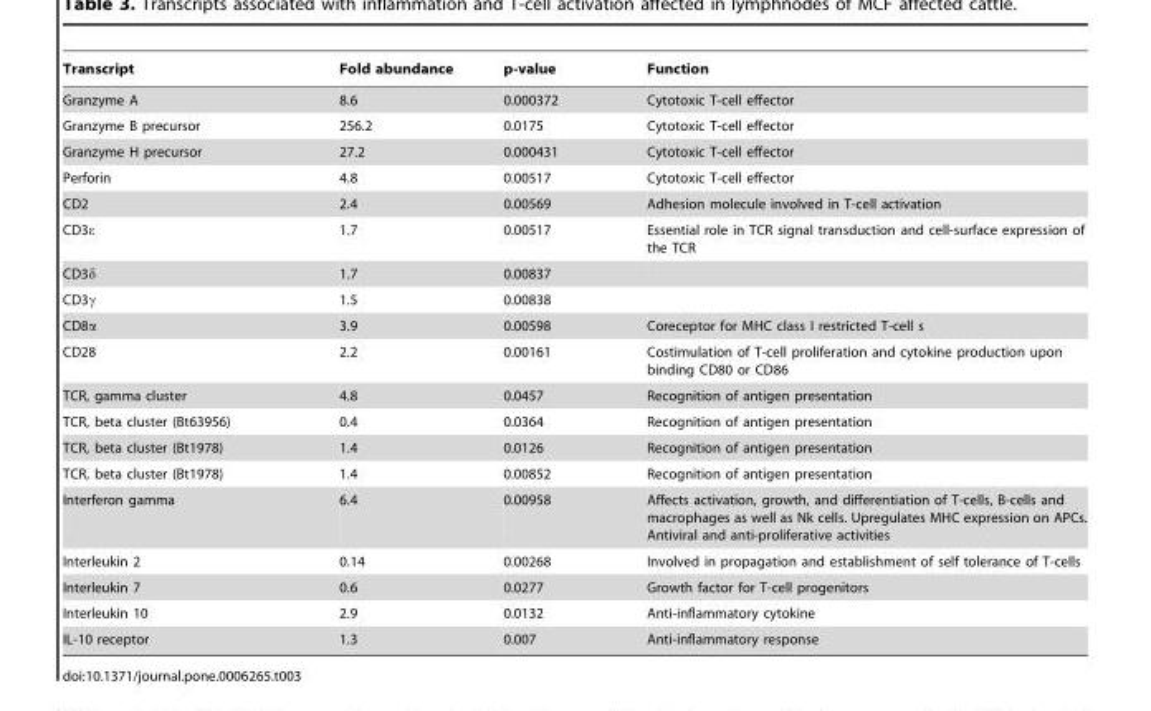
<table><thead><tr><td>Transcript</td><td>Fold abundance</td><td>p-value</td><td>Function</td></tr></thead><tbody><tr><td>Granzyme A</td><td>8.6</td><td>0.000372</td><td>Cytotoxic T-cell effector</td></tr><tr><td>Granzyme B precursor</td><td>256.2</td><td>0.0175</td><td>Cytotoxic T-cell effector</td></tr><tr><td>Granzyme H precursor</td><td>27.2</td><td>0.000431</td><td>Cytotoxic T-cell effector</td></tr><tr><td>Perforin</td><td>4.8</td><td>0.00517</td><td>Cytotoxic T-cell effector</td></tr><tr><td>CD2</td><td>2.4</td><td>0.00569</td><td>Adhesion molecule involved in T-cell activation</td></tr><tr><td>CD3ε</td><td>1.7</td><td>0.00517</td><td>Essential role in TCR signal transduction and cell-surface expression of the TCR</td></tr><tr><td>CD3δ</td><td>1.7</td><td>0.00837</td><td></td></tr><tr><td>CD3γ</td><td>1.5</td><td>0.00838</td><td></td></tr><tr><td>CD8α</td><td>3.9</td><td>0.00598</td><td>Coreceptor for MHC class I restricted T-cell s</td></tr><tr><td>CD28</td><td>2.2</td><td>0.00161</td><td>Costimulation of T-cell proliferation and cytokine production upon binding CD80 or CD86</td></tr><tr><td>TCR, gamma cluster</td><td>4.8</td><td>0.0457</td><td>Recognition of antigen presentation</td></tr><tr><td>TCR, beta cluster (Bt63956)</td><td>0.4</td><td>0.0364</td><td>Recognition of antigen presentation</td></tr><tr><td>TCR, beta cluster (Bt1978)</td><td>1.4</td><td>0.0126</td><td>Recognition of antigen presentation</td></tr><tr><td>TCR, beta cluster (Bt1978)</td><td>1.4</td><td>0.00852</td><td>Recognition of antigen presentation</td></tr><tr><td>Interferon gamma</td><td>6.4</td><td>0.00958</td><td>Affects activation, growth, and differentiation of T-cells, B-cells and macrophages as well as Nk cells. Upregulates MHC expression on APCs. Antiviral and anti-proliferative activities</td></tr><tr><td>Interleukin 2</td><td>0.14</td><td>0.00268</td><td>Involved in propagation and establishment of self tolerance of T-cells</td></tr><tr><td>Interleukin 7</td><td>0.6</td><td>0.0277</td><td>Growth factor for T-cell progenitors</td></tr><tr><td>Interleukin 10</td><td>2.9</td><td>0.0132</td><td>Anti-inflammatory cytokine</td></tr><tr><td>IL-10 receptor</td><td>1.3</td><td>0.007</td><td>Anti-inflammatory response</td></tr></tbody></table>